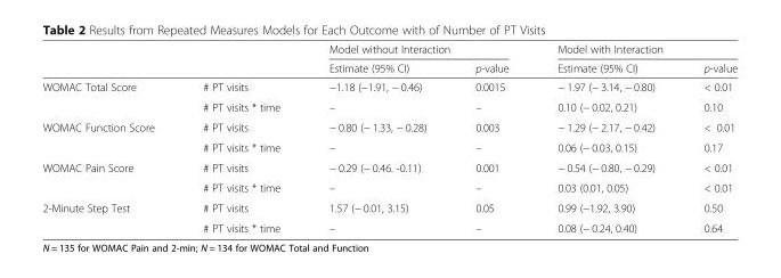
<table><thead><tr><td rowspan="2"></td><td rowspan="2"></td><td colspan="2">Model without Interaction</td><td colspan="2">Model with Interaction</td></tr><tr><td>Estimate (95% CI)</td><td>p-value</td><td>Estimate (95% CI)</td><td>p-value</td></tr></thead><tbody><tr><td rowspan="2">WOMAC Total Score</td><td># PT visits</td><td>−1.18 (−1.91, − 0.46)</td><td>0.0015</td><td>− 1.97 (− 3.14, − 0.80)</td><td>&lt; 0.01</td></tr><tr><td># PT visits * time</td><td>–</td><td>–</td><td>0.10 (− 0.02, 0.21)</td><td>0.10</td></tr><tr><td rowspan="2">WOMAC Function Score</td><td># PT visits</td><td>− 0.80 (− 1.33, − 0.28)</td><td>0.003</td><td>− 1.29 (− 2.17, − 0.42)</td><td>&lt; 0.01</td></tr><tr><td># PT visits * time</td><td>–</td><td>–</td><td>0.06 (− 0.03, 0.15)</td><td>0.17</td></tr><tr><td rowspan="2">WOMAC Pain Score</td><td># PT visits</td><td>− 0.29 (− 0.46. -0.11)</td><td>0.001</td><td>− 0.54 (− 0.80, − 0.29)</td><td>&lt; 0.01</td></tr><tr><td># PT visits * time</td><td>–</td><td>–</td><td>0.03 (0.01, 0.05)</td><td>&lt; 0.01</td></tr><tr><td rowspan="2">2-Minute Step Test</td><td># PT visits</td><td>1.57 (− 0.01, 3.15)</td><td>0.05</td><td>0.99 (−1.92, 3.90)</td><td>0.50</td></tr><tr><td># PT visits * time</td><td>–</td><td>–</td><td>0.08 (− 0.24, 0.40)</td><td>0.64</td></tr></tbody></table>